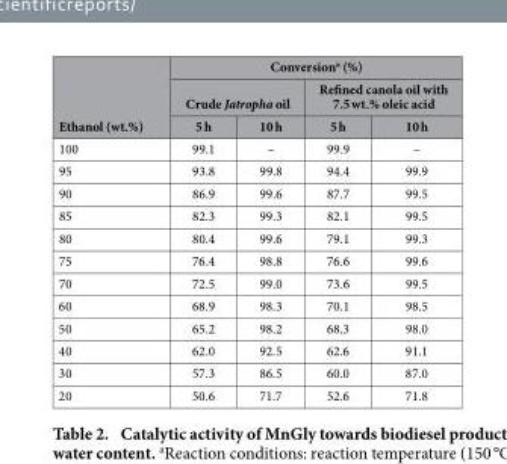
<table><thead><tr><td rowspan="3">Ethanol (wt.%)</td><td colspan="4">Conversion<sup>a</sup> (%)</td></tr><tr><td colspan="2">Crude Jatropha oil</td><td colspan="2">Refined canola oil with 7.5 wt.% oleic acid</td></tr><tr><td>5 h</td><td>10 h</td><td>5 h</td><td>10 h</td></tr></thead><tbody><tr><td>100</td><td>99.1</td><td>–</td><td>99.9</td><td>–</td></tr><tr><td>95</td><td>93.8</td><td>99.8</td><td>94.4</td><td>99.9</td></tr><tr><td>90</td><td>86.9</td><td>99.6</td><td>87.7</td><td>99.5</td></tr><tr><td>85</td><td>82.3</td><td>99.3</td><td>82.1</td><td>99.5</td></tr><tr><td>80</td><td>80.4</td><td>99.6</td><td>79.1</td><td>99.3</td></tr><tr><td>75</td><td>76.4</td><td>98.8</td><td>76.6</td><td>99.6</td></tr><tr><td>70</td><td>72.5</td><td>99.0</td><td>73.6</td><td>99.5</td></tr><tr><td>60</td><td>68.9</td><td>98.3</td><td>70.1</td><td>98.5</td></tr><tr><td>50</td><td>65.2</td><td>98.2</td><td>68.3</td><td>98.0</td></tr><tr><td>40</td><td>62.0</td><td>92.5</td><td>62.6</td><td>91.1</td></tr><tr><td>30</td><td>57.3</td><td>86.5</td><td>60.0</td><td>87.0</td></tr><tr><td>20</td><td>50.6</td><td>71.7</td><td>52.6</td><td>71.8</td></tr></tbody></table>